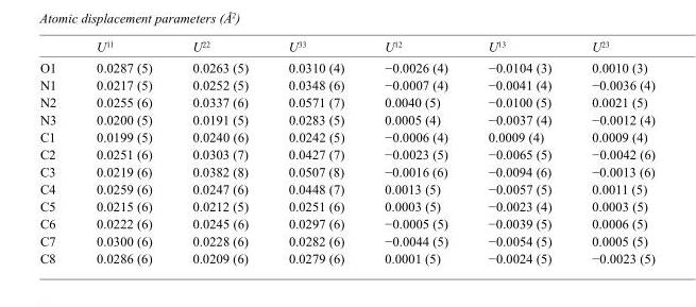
<table><thead><tr><td></td><td>U<sup>11</sup></td><td>U<sup>22</sup></td><td>U<sup>33</sup></td><td>U<sup>12</sup></td><td>U<sup>13</sup></td><td>U<sup>23</sup></td></tr></thead><tbody><tr><td>O1</td><td>0.0287 (5)</td><td>0.0263 (5)</td><td>0.0310 (4)</td><td>−0.0026 (4)</td><td>−0.0104 (3)</td><td>0.0010 (3)</td></tr><tr><td>N1</td><td>0.0217 (5)</td><td>0.0252 (5)</td><td>0.0348 (6)</td><td>−0.0007 (4)</td><td>−0.0041 (4)</td><td>−0.0036 (4)</td></tr><tr><td>N2</td><td>0.0255 (6)</td><td>0.0337 (6)</td><td>0.0571 (7)</td><td>0.0040 (5)</td><td>−0.0100 (5)</td><td>0.0021 (5)</td></tr><tr><td>N3</td><td>0.0200 (5)</td><td>0.0191 (5)</td><td>0.0283 (5)</td><td>0.0005 (4)</td><td>−0.0037 (4)</td><td>−0.0012 (4)</td></tr><tr><td>C1</td><td>0.0199 (5)</td><td>0.0240 (6)</td><td>0.0242 (5)</td><td>−0.0006 (4)</td><td>0.0009 (4)</td><td>0.0009 (4)</td></tr><tr><td>C2</td><td>0.0251 (6)</td><td>0.0303 (7)</td><td>0.0427 (7)</td><td>−0.0023 (5)</td><td>−0.0065 (5)</td><td>−0.0042 (6)</td></tr><tr><td>C3</td><td>0.0219 (6)</td><td>0.0382 (8)</td><td>0.0507 (8)</td><td>−0.0016 (6)</td><td>−0.0094 (6)</td><td>−0.0013 (6)</td></tr><tr><td>C4</td><td>0.0259 (6)</td><td>0.0247 (6)</td><td>0.0448 (7)</td><td>0.0013 (5)</td><td>−0.0057 (5)</td><td>0.0011 (5)</td></tr><tr><td>C5</td><td>0.0215 (6)</td><td>0.0212 (5)</td><td>0.0251 (6)</td><td>0.0003 (5)</td><td>−0.0023 (4)</td><td>0.0003 (5)</td></tr><tr><td>C6</td><td>0.0222 (6)</td><td>0.0245 (6)</td><td>0.0297 (6)</td><td>−0.0005 (5)</td><td>−0.0039 (5)</td><td>0.0006 (5)</td></tr><tr><td>C7</td><td>0.0300 (6)</td><td>0.0228 (6)</td><td>0.0282 (6)</td><td>−0.0044 (5)</td><td>−0.0054 (5)</td><td>0.0005 (5)</td></tr><tr><td>C8</td><td>0.0286 (6)</td><td>0.0209 (6)</td><td>0.0279 (6)</td><td>0.0001 (5)</td><td>−0.0024 (5)</td><td>−0.0023 (5)</td></tr></tbody></table>